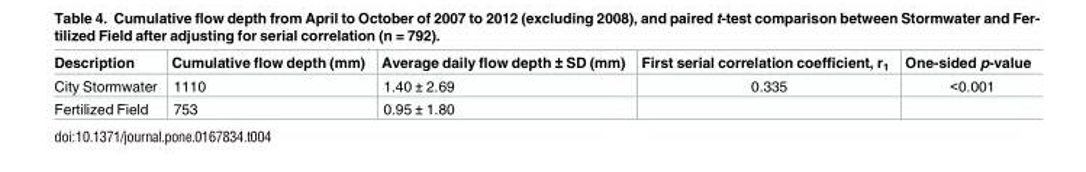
<table><thead><tr><td>Description</td><td>Cumulative flow depth (mm)</td><td>Average daily flow depth ± SD (mm)</td><td>First serial correlation coefficient, r<sub>1</sub></td><td>One-sided p-value</td></tr></thead><tbody><tr><td>City Stormwater</td><td>1110</td><td>1.40 ± 2.69</td><td>0.335</td><td>&lt;0.001</td></tr><tr><td>Fertilized Field</td><td>753</td><td>0.95 ± 1.80</td><td></td><td></td></tr></tbody></table>